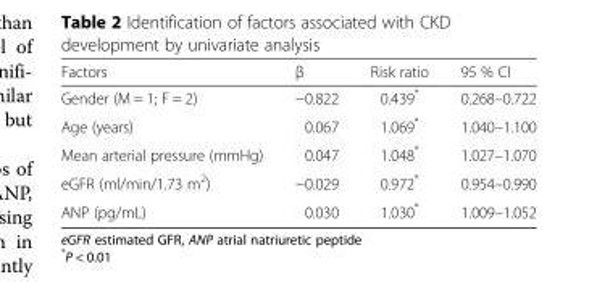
<table><thead><tr><td>Factors</td><td>β</td><td>Risk ratio</td><td>95 % CI</td></tr></thead><tbody><tr><td>Gender (M = 1; F = 2)</td><td>−0.822</td><td>0.439*</td><td>0.268–0.722</td></tr><tr><td>Age (years)</td><td>0.067</td><td>1.069*</td><td>1.040–1.100</td></tr><tr><td>Mean arterial pressure (mmHg)</td><td>0.047</td><td>1.048*</td><td>1.027–1.070</td></tr><tr><td>eGFR (ml/min/1.73 m<sup>2</sup>)</td><td>−0.029</td><td>0.972*</td><td>0.954–0.990</td></tr><tr><td>ANP (pg/mL)</td><td>0.030</td><td>1.030*</td><td>1.009–1.052</td></tr></tbody></table>